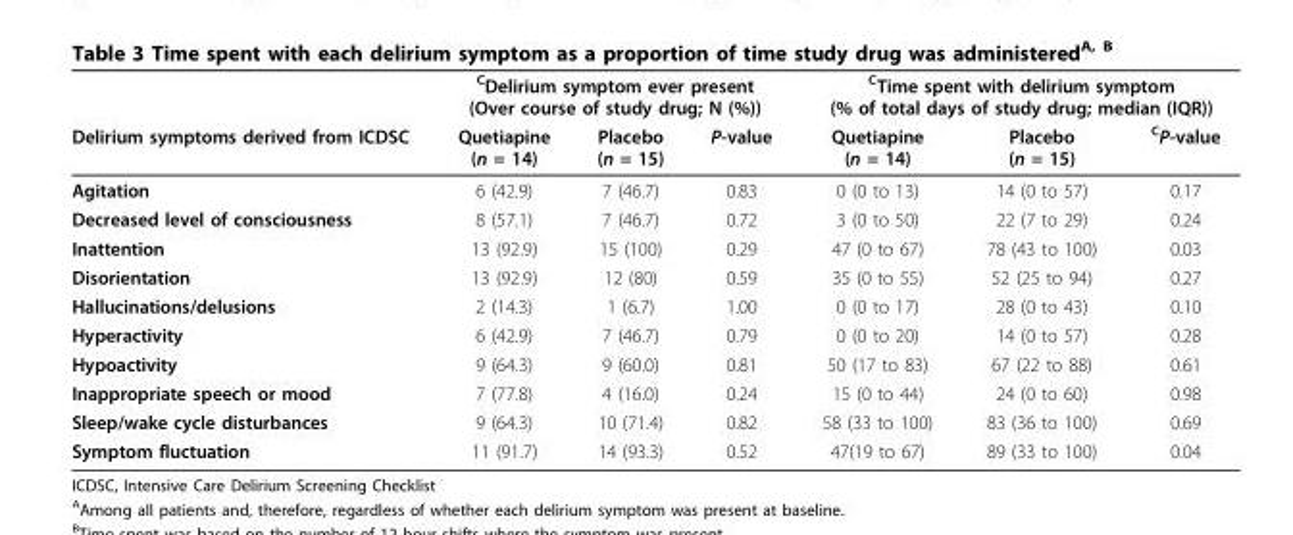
<table><thead><tr><td rowspan="2">Delirium symptoms derived from ICDSC</td><td colspan="3"><sup>C</sup>Delirium symptom ever present (Over course of study drug; N (%))</td><td colspan="3"><sup>C</sup>Time spent with delirium symptom (% of total days of study drug; median (IQR))</td></tr><tr><td>Quetiapine (n = 14)</td><td>Placebo (n = 15)</td><td>P-value</td><td>Quetiapine (n = 14)</td><td>Placebo (n = 15)</td><td><sup>C</sup>P-value</td></tr></thead><tbody><tr><td>Agitation</td><td>6 (42.9)</td><td>7 (46.7)</td><td>0.83</td><td>0 (0 to 13)</td><td>14 (0 to 57)</td><td>0.17</td></tr><tr><td>Decreased level of consciousness</td><td>8 (57.1)</td><td>7 (46.7)</td><td>0.72</td><td>3 (0 to 50)</td><td>22 (7 to 29)</td><td>0.24</td></tr><tr><td>Inattention</td><td>13 (92.9)</td><td>15 (100)</td><td>0.29</td><td>47 (0 to 67)</td><td>78 (43 to 100)</td><td>0.03</td></tr><tr><td>Disorientation</td><td>13 (92.9)</td><td>12 (80)</td><td>0.59</td><td>35 (0 to 55)</td><td>52 (25 to 94)</td><td>0.27</td></tr><tr><td>Hallucinations/delusions</td><td>2 (14.3)</td><td>1 (6.7)</td><td>1.00</td><td>0 (0 to 17)</td><td>28 (0 to 43)</td><td>0.10</td></tr><tr><td>Hyperactivity</td><td>6 (42.9)</td><td>7 (46.7)</td><td>0.79</td><td>0 (0 to 20)</td><td>14 (0 to 57)</td><td>0.28</td></tr><tr><td>Hypoactivity</td><td>9 (64.3)</td><td>9 (60.0)</td><td>0.81</td><td>50 (17 to 83)</td><td>67 (22 to 88)</td><td>0.61</td></tr><tr><td>Inappropriate speech or mood</td><td>7 (77.8)</td><td>4 (16.0)</td><td>0.24</td><td>15 (0 to 44)</td><td>24 (0 to 60)</td><td>0.98</td></tr><tr><td>Sleep/wake cycle disturbances</td><td>9 (64.3)</td><td>10 (71.4)</td><td>0.82</td><td>58 (33 to 100)</td><td>83 (36 to 100)</td><td>0.69</td></tr><tr><td>Symptom fluctuation</td><td>11 (91.7)</td><td>14 (93.3)</td><td>0.52</td><td>47(19 to 67)</td><td>89 (33 to 100)</td><td>0.04</td></tr></tbody></table>